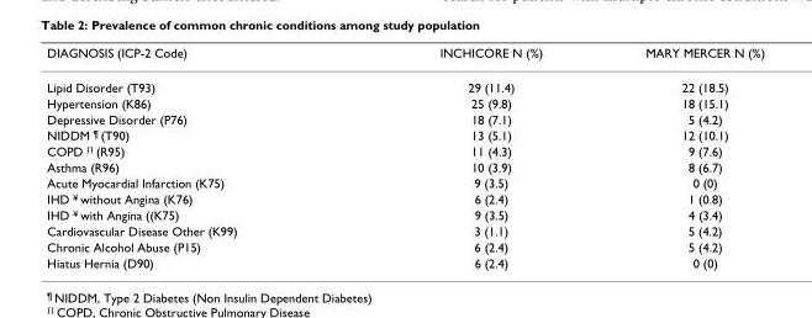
<table><thead><tr><td>DIAGNOSIS (ICP-2 Code)</td><td>INCHICORE N (%)</td><td>MARY MERCER N (%)</td></tr></thead><tbody><tr><td>Lipid Disorder (T93)</td><td>29 (11.4)</td><td>22 (18.5)</td></tr><tr><td>Hypertension (K86)</td><td>25 (9.8)</td><td>18 (15.1)</td></tr><tr><td>Depressive Disorder (P76)</td><td>18 (7.1)</td><td>5 (4.2)</td></tr><tr><td>NIDDM <sup>¶</sup> (T90)</td><td>13 (5.1)</td><td>12 (10.1)</td></tr><tr><td>COPD <sup>Π</sup> (R95)</td><td>11 (4.3)</td><td>9 (7.6)</td></tr><tr><td>Asthma (R96)</td><td>10 (3.9)</td><td>8 (6.7)</td></tr><tr><td>Acute Myocardial Infarction (K75)</td><td>9 (3.5)</td><td>0 (0)</td></tr><tr><td>IHD <sup>¥</sup> without Angina (K76)</td><td>6 (2.4)</td><td>1 (0.8)</td></tr><tr><td>IHD <sup>¥</sup> with Angina ((K75)</td><td>9 (3.5)</td><td>4 (3.4)</td></tr><tr><td>Cardiovascular Disease Other (K99)</td><td>3 (1.1)</td><td>5 (4.2)</td></tr><tr><td>Chronic Alcohol Abuse (P15)</td><td>6 (2.4)</td><td>5 (4.2)</td></tr><tr><td>Hiatus Hernia (D90)</td><td>6 (2.4)</td><td>0 (0)</td></tr></tbody></table>